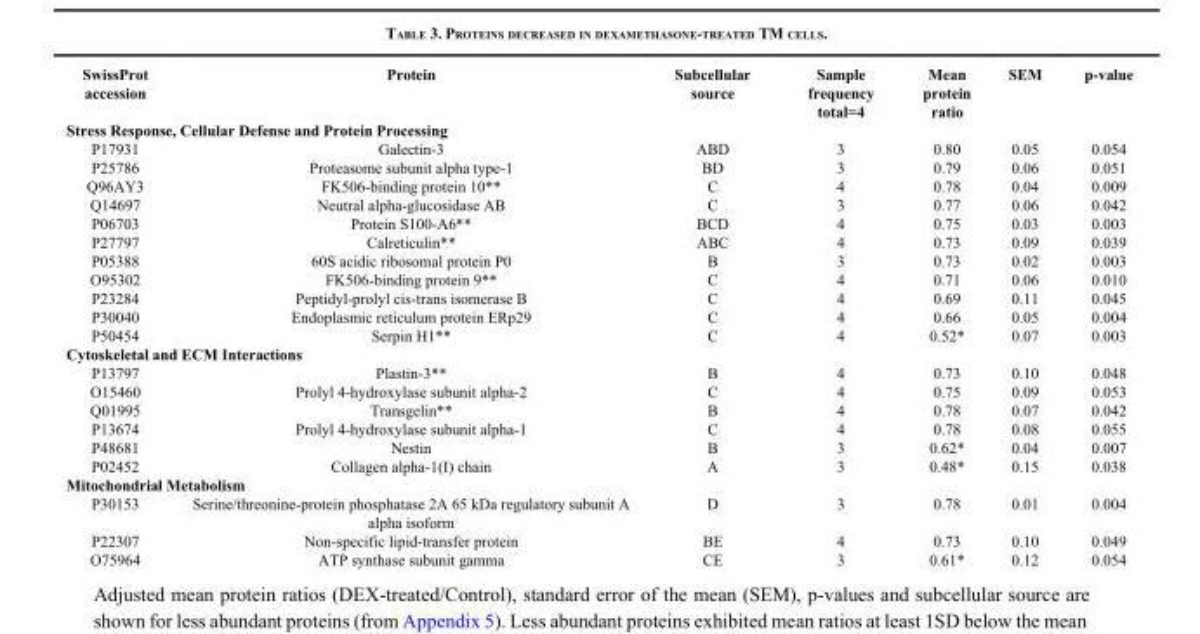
<table><thead><tr><td>SwissProt accession</td><td>Protein</td><td>Subcellular source</td><td>Sample frequency total=4</td><td>Mean protein ratio</td><td>SEM</td><td>p-value</td></tr></thead><tbody><tr><td colspan="7">Stress Response, Cellular Defense and Protein Processing</td></tr><tr><td>P17931</td><td>Galectin-3</td><td>ABD</td><td>3</td><td>0.80</td><td>0.05</td><td>0.054</td></tr><tr><td>P25786</td><td>Proteasome subunit alpha type-1</td><td>BD</td><td>3</td><td>0.79</td><td>0.06</td><td>0.051</td></tr><tr><td>Q96AY3</td><td>FK506-binding protein 10**</td><td>C</td><td>4</td><td>0.78</td><td>0.04</td><td>0.009</td></tr><tr><td>Q14697</td><td>Neutral alpha-glucosidase AB</td><td>C</td><td>3</td><td>0.77</td><td>0.06</td><td>0.042</td></tr><tr><td>P06703</td><td>Protein S100-A6**</td><td>BCD</td><td>4</td><td>0.75</td><td>0.03</td><td>0.003</td></tr><tr><td>P27797</td><td>Calreticulin**</td><td>ABC</td><td>4</td><td>0.73</td><td>0.09</td><td>0.039</td></tr><tr><td>P05388</td><td>60S acidic ribosomal protein P0</td><td>B</td><td>3</td><td>0.73</td><td>0.02</td><td>0.003</td></tr><tr><td>O95302</td><td>FK506-binding protein 9**</td><td>C</td><td>4</td><td>0.71</td><td>0.06</td><td>0.010</td></tr><tr><td>P23284</td><td>Peptidyl-prolyl cis-trans isomerase B</td><td>C</td><td>4</td><td>0.69</td><td>0.11</td><td>0.045</td></tr><tr><td>P30040</td><td>Endoplasmic reticulum protein ERp29</td><td>C</td><td>4</td><td>0.66</td><td>0.05</td><td>0.004</td></tr><tr><td>P50454</td><td>Serpin H1**</td><td>C</td><td>4</td><td>0.52*</td><td>0.07</td><td>0.003</td></tr><tr><td colspan="7">Cytoskeletal and ECM Interactions</td></tr><tr><td>P13797</td><td>Plastin-3**</td><td>B</td><td>4</td><td>0.73</td><td>0.10</td><td>0.048</td></tr><tr><td>O15460</td><td>Prolyl 4-hydroxylase subunit alpha-2</td><td>C</td><td>4</td><td>0.75</td><td>0.09</td><td>0.053</td></tr><tr><td>Q01995</td><td>Transgelin**</td><td>B</td><td>4</td><td>0.78</td><td>0.07</td><td>0.042</td></tr><tr><td>P13674</td><td>Prolyl 4-hydroxylase subunit alpha-1</td><td>C</td><td>4</td><td>0.78</td><td>0.08</td><td>0.055</td></tr><tr><td>P48681</td><td>Nestin</td><td>B</td><td>3</td><td>0.62*</td><td>0.04</td><td>0.007</td></tr><tr><td>P02452</td><td>Collagen alpha-1(I) chain</td><td>A</td><td>3</td><td>0.48*</td><td>0.15</td><td>0.038</td></tr><tr><td colspan="7">Mitochondrial Metabolism</td></tr><tr><td>P30153</td><td>Serine/threonine-protein phosphatase 2A 65 kDa regulatory subunit A alpha isoform</td><td>D</td><td>3</td><td>0.78</td><td>0.01</td><td>0.004</td></tr><tr><td>P22307</td><td>Non-specific lipid-transfer protein</td><td>BE</td><td>4</td><td>0.73</td><td>0.10</td><td>0.049</td></tr><tr><td>O75964</td><td>ATP synthase subunit gamma</td><td>CE</td><td>3</td><td>0.61*</td><td>0.12</td><td>0.054</td></tr></tbody></table>